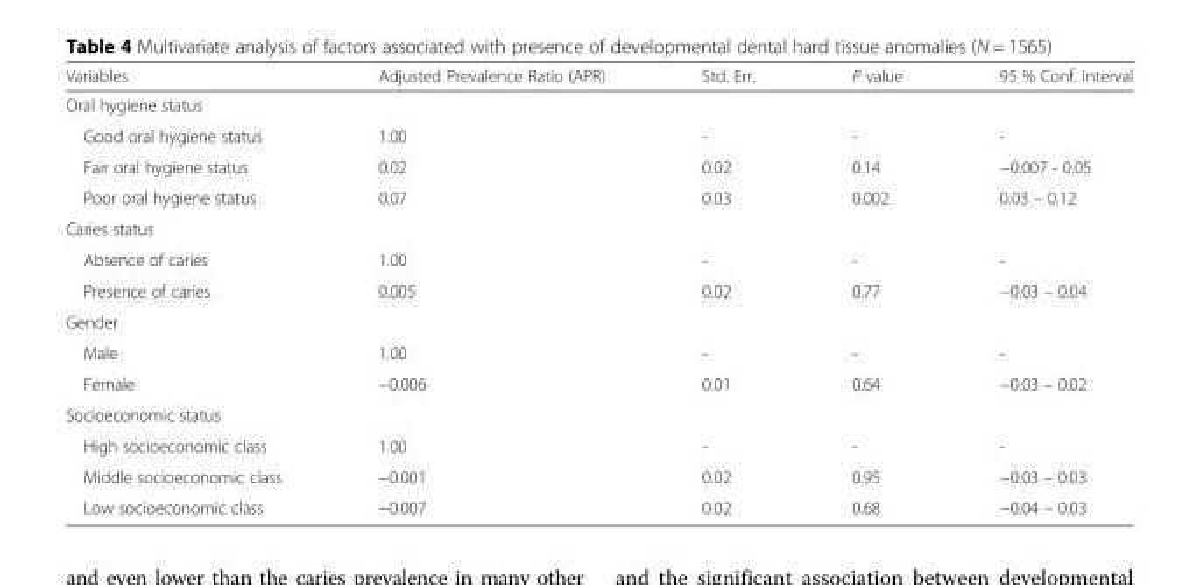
<table><thead><tr><td>Variables</td><td>Adjusted Prevalence Ratio (APR)</td><td>Std. Err.</td><td>P value</td><td>95 % Conf. Interval</td></tr></thead><tbody><tr><td colspan="5">Oral hygiene status</td></tr><tr><td>Good oral hygiene status</td><td>1.00</td><td>-</td><td>-</td><td>-</td></tr><tr><td>Fair oral hygiene status</td><td>0.02</td><td>0.02</td><td>0.14</td><td>−0.007 - 0.05</td></tr><tr><td>Poor oral hygiene status</td><td>0.07</td><td>0.03</td><td>0.002</td><td>0.03 – 0.12</td></tr><tr><td colspan="5">Caries status</td></tr><tr><td>Absence of caries</td><td>1.00</td><td>-</td><td>-</td><td>-</td></tr><tr><td>Presence of caries</td><td>0.005</td><td>0.02</td><td>0.77</td><td>−0.03 – 0.04</td></tr><tr><td colspan="5">Gender</td></tr><tr><td>Male</td><td>1.00</td><td>-</td><td>-</td><td>-</td></tr><tr><td>Female</td><td>−0.006</td><td>0.01</td><td>0.64</td><td>−0.03 – 0.02</td></tr><tr><td colspan="5">Socioeconomic status</td></tr><tr><td>High socioeconomic class</td><td>1.00</td><td>-</td><td>-</td><td>-</td></tr><tr><td>Middle socioeconomic class</td><td>−0.001</td><td>0.02</td><td>0.95</td><td>−0.03 – 0.03</td></tr><tr><td>Low socioeconomic class</td><td>−0.007</td><td>0.02</td><td>0.68</td><td>−0.04 – 0.03</td></tr></tbody></table>